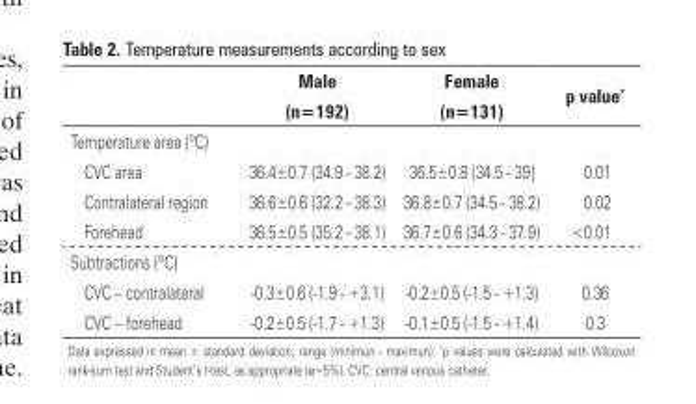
<table><thead><tr><td rowspan="2"></td><td rowspan="2">Male (n=192)</td><td rowspan="2">Female (n=131)</td><td rowspan="2">p value*</td></tr><tr></tr></thead><tbody><tr><td colspan="4">Temperature area (ºC)</td></tr><tr><td>CVC area</td><td>36.4±0.7 (34.9 - 38.2)</td><td>36.5±0.8 (34.5 - 39]</td><td>0.01</td></tr><tr><td>Contralateral region</td><td>36.6±0.6 (32.2 - 38.3)</td><td>36.8±0.7 (34.5 - 38.2)</td><td>0.02</td></tr><tr><td>Forehead</td><td>36.5±0.5 (35.2 - 38.1)</td><td>36.7±0.6 (34.3 - 37.9)</td><td>&lt;0.01</td></tr><tr><td colspan="4">Subtractions (ºC)</td></tr><tr><td>CVC – contralateral</td><td>-0.3±0.6 (-1.9 - +3.1)</td><td>-0.2±0.5 (-1.5 - +1.3)</td><td>0.36</td></tr><tr><td>CVC – forehead</td><td>-0.2±0.5 (-1.7 - +1.3)</td><td>-0.1±0.5 (-1.5 - +1.4)</td><td>0.3</td></tr></tbody></table>